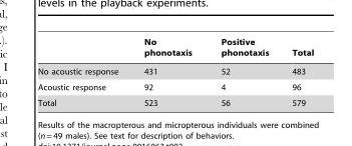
<table><thead><tr><td></td><td>No phonotaxis</td><td>Positive phonotaxis</td><td>Total</td></tr></thead><tbody><tr><td>No acoustic response</td><td>431</td><td>52</td><td>483</td></tr><tr><td>Acoustic response</td><td>92</td><td>4</td><td>96</td></tr><tr><td>Total</td><td>523</td><td>56</td><td>579</td></tr></tbody></table>